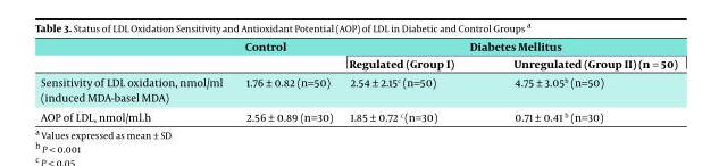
<table><thead><tr><td rowspan="2"></td><td rowspan="2">Control</td><td colspan="2">Diabetes Mellitus</td></tr><tr><td>Regulated (Group I)</td><td>Unregulated (Group II) (n = 50)</td></tr></thead><tbody><tr><td>Sensitivity of LDL oxidation, nmol/ml (induced MDA-basel MDA)</td><td>1.76 ± 0.82 (n=50)</td><td>2.54 ± 2.15<sup>c</sup> (n=50)</td><td>4.75 ± 3.05<sup>b</sup> (n=50)</td></tr><tr><td>AOP of LDL, nmol/ml.h</td><td>2.56 ± 0.89 (n=30)</td><td>1.85 ± 0.72 <sup>c</sup> (n=30)</td><td>0.71 ± 0.41 <sup>b</sup> (n=30)</td></tr></tbody></table>